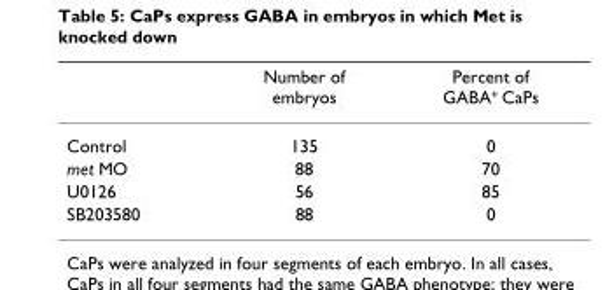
<table><thead><tr><td></td><td>Number of embryos</td><td>Percent of GABA<sup>+</sup> CaPs</td></tr></thead><tbody><tr><td>Control</td><td>135</td><td>0</td></tr><tr><td>met MO</td><td>88</td><td>70</td></tr><tr><td>U0126</td><td>56</td><td>85</td></tr><tr><td>SB203580</td><td>88</td><td>0</td></tr></tbody></table>